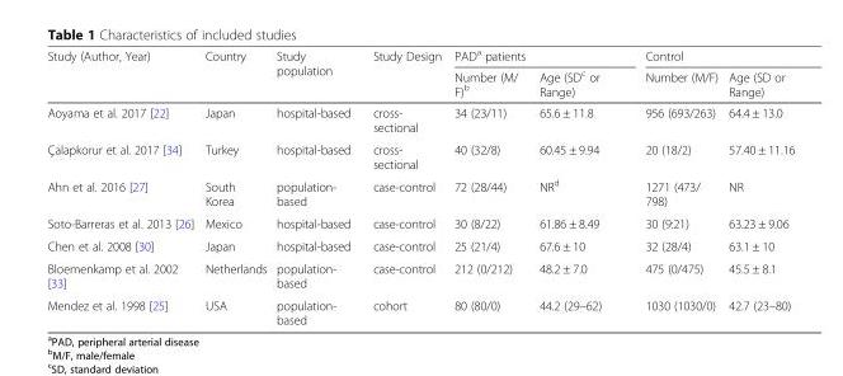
<table><thead><tr><td rowspan="2">Study (Author, Year)</td><td rowspan="2">Country</td><td rowspan="2">Study population</td><td rowspan="2">Study Design</td><td colspan="2">PAD<sup>a</sup> patients</td><td colspan="2">Control</td></tr><tr><td>Number (M/ F)<sup>b</sup></td><td>Age (SD<sup>c</sup> or Range)</td><td>Number (M/F)</td><td>Age (SD or Range)</td></tr></thead><tbody><tr><td>Aoyama et al. 2017 [22]</td><td>Japan</td><td>hospital-based</td><td>cross- sectional</td><td>34 (23/11)</td><td>65.6 ± 11.8</td><td>956 (693/263)</td><td>64.4 ± 13.0</td></tr><tr><td>Çalapkorur et al. 2017 [34]</td><td>Turkey</td><td>hospital-based</td><td>cross- sectional</td><td>40 (32/8)</td><td>60.45 ± 9.94</td><td>20 (18/2)</td><td>57.40 ± 11.16</td></tr><tr><td>Ahn et al. 2016 [27]</td><td>South Korea</td><td>population- based</td><td>case-control</td><td>72 (28/44)</td><td>NR<sup>d</sup></td><td>1271 (473/ 798)</td><td>NR</td></tr><tr><td>Soto-Barreras et al. 2013 [26]</td><td>Mexico</td><td>hospital-based</td><td>case-control</td><td>30 (8/22)</td><td>61.86 ± 8.49</td><td>30 (9:21)</td><td>63.23 ± 9.06</td></tr><tr><td>Chen et al. 2008 [30]</td><td>Japan</td><td>hospital-based</td><td>case-control</td><td>25 (21/4)</td><td>67.6 ± 10</td><td>32 (28/4)</td><td>63.1 ± 10</td></tr><tr><td>Bloemenkamp et al. 2002 [33]</td><td>Netherlands</td><td>population- based</td><td>case-control</td><td>212 (0/212)</td><td>48.2 ± 7.0</td><td>475 (0/475)</td><td>45.5 ± 8.1</td></tr><tr><td>Mendez et al. 1998 [25]</td><td>USA</td><td>population- based</td><td>cohort</td><td>80 (80/0)</td><td>44.2 (29–62)</td><td>1030 (1030/0)</td><td>42.7 (23–80)</td></tr></tbody></table>